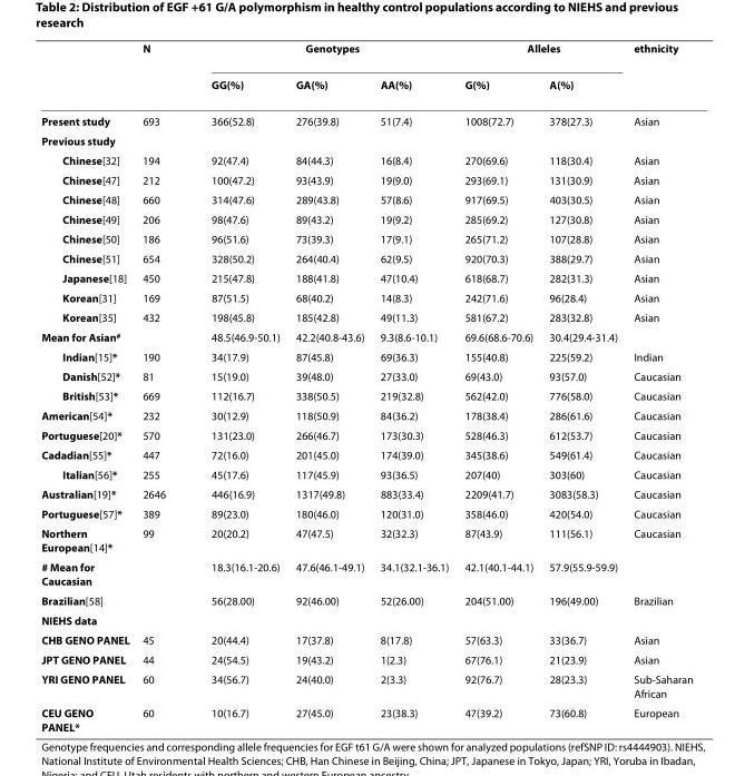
<table><thead><tr><td rowspan="2"></td><td rowspan="2">N</td><td colspan="3">Genotypes</td><td colspan="2">Alleles</td><td rowspan="2">ethnicity</td></tr><tr><td>GG(%)</td><td>GA(%)</td><td>AA(%)</td><td>G(%)</td><td>A(%)</td></tr></thead><tbody><tr><td>Present study</td><td>693</td><td>366(52.8)</td><td>276(39.8)</td><td>51(7.4)</td><td>1008(72.7)</td><td>378(27.3)</td><td>Asian</td></tr><tr><td colspan="8">Previous study</td></tr><tr><td>Chinese[32]</td><td>194</td><td>92(47.4)</td><td>84(44.3)</td><td>16(8.4)</td><td>270(69.6)</td><td>118(30.4)</td><td>Asian</td></tr><tr><td>Chinese[47]</td><td>212</td><td>100(47.2)</td><td>93(43.9)</td><td>19(9.0)</td><td>293(69.1)</td><td>131(30.9)</td><td>Asian</td></tr><tr><td>Chinese[48]</td><td>660</td><td>314(47.6)</td><td>289(43.8)</td><td>57(8.6)</td><td>917(69.5)</td><td>403(30.5)</td><td>Asian</td></tr><tr><td>Chinese[49]</td><td>206</td><td>98(47.6)</td><td>89(43.2)</td><td>19(9.2)</td><td>285(69.2)</td><td>127(30.8)</td><td>Asian</td></tr><tr><td>Chinese[50]</td><td>186</td><td>96(51.6)</td><td>73(39.3)</td><td>17(9.1)</td><td>265(71.2)</td><td>107(28.8)</td><td>Asian</td></tr><tr><td>Chinese[51]</td><td>654</td><td>328(50.2)</td><td>264(40.4)</td><td>62(9.5)</td><td>920(70.3)</td><td>388(29.7)</td><td>Asian</td></tr><tr><td>Japanese[18]</td><td>450</td><td>215(47.8)</td><td>188(41.8)</td><td>47(10.4)</td><td>618(68.7)</td><td>282(31.3)</td><td>Asian</td></tr><tr><td>Korean[31]</td><td>169</td><td>87(51.5)</td><td>68(40.2)</td><td>14(8.3)</td><td>242(71.6)</td><td>96(28.4)</td><td>Asian</td></tr><tr><td>Korean[35]</td><td>432</td><td>198(45.8)</td><td>185(42.8)</td><td>49(11.3)</td><td>581(67.2)</td><td>283(32.8)</td><td>Asian</td></tr><tr><td>Mean for Asian<sup>#</sup></td><td></td><td>48.5(46.9-50.1)</td><td>42.2(40.8-43.6)</td><td>9.3(8.6-10.1)</td><td>69.6(68.6-70.6)</td><td>30.4(29.4-31.4)</td><td></td></tr><tr><td>Indian[15]*</td><td>190</td><td>34(17.9)</td><td>87(45.8)</td><td>69(36.3)</td><td>155(40.8)</td><td>225(59.2)</td><td>Indian</td></tr><tr><td>Danish[52]*</td><td>81</td><td>15(19.0)</td><td>39(48.0)</td><td>27(33.0)</td><td>69(43.0)</td><td>93(57.0)</td><td>Caucasian</td></tr><tr><td>British[53]*</td><td>669</td><td>112(16.7)</td><td>338(50.5)</td><td>219(32.8)</td><td>562(42.0)</td><td>776(58.0)</td><td>Caucasian</td></tr><tr><td>American[54]*</td><td>232</td><td>30(12.9)</td><td>118(50.9)</td><td>84(36.2)</td><td>178(38.4)</td><td>286(61.6)</td><td>Caucasian</td></tr><tr><td>Portuguese[20]*</td><td>570</td><td>131(23.0)</td><td>266(46.7)</td><td>173(30.3)</td><td>528(46.3)</td><td>612(53.7)</td><td>Caucasian</td></tr><tr><td>Cadadian[55]*</td><td>447</td><td>72(16.0)</td><td>201(45.0)</td><td>174(39.0)</td><td>345(38.6)</td><td>549(61.4)</td><td>Caucasian</td></tr><tr><td>Italian[56]*</td><td>255</td><td>45(17.6)</td><td>117(45.9)</td><td>93(36.5)</td><td>207(40)</td><td>303(60)</td><td>Caucasian</td></tr><tr><td>Australian[19]*</td><td>2646</td><td>446(16.9)</td><td>1317(49.8)</td><td>883(33.4)</td><td>2209(41.7)</td><td>3083(58.3)</td><td>Caucasian</td></tr><tr><td>Portuguese[57]*</td><td>389</td><td>89(23.0)</td><td>180(46.0)</td><td>120(31.0)</td><td>358(46.0)</td><td>420(54.0)</td><td>Caucasian</td></tr><tr><td>Northern European[14]*</td><td>99</td><td>20(20.2)</td><td>47(47.5)</td><td>32(32.3)</td><td>87(43.9)</td><td>111(56.1)</td><td>Caucasian</td></tr><tr><td># Mean for Caucasian</td><td></td><td>18.3(16.1-20.6)</td><td>47.6(46.1-49.1)</td><td>34.1(32.1-36.1)</td><td>42.1(40.1-44.1)</td><td>57.9(55.9-59.9)</td><td></td></tr><tr><td>Brazilian[58]</td><td></td><td>56(28.00)</td><td>92(46.00)</td><td>52(26.00)</td><td>204(51.00)</td><td>196(49.00)</td><td>Brazilian</td></tr><tr><td colspan="8">NIEHS data</td></tr><tr><td>CHB GENO PANEL</td><td>45</td><td>20(44.4)</td><td>17(37.8)</td><td>8(17.8)</td><td>57(63.3)</td><td>33(36.7)</td><td>Asian</td></tr><tr><td>JPT GENO PANEL</td><td>44</td><td>24(54.5)</td><td>19(43.2)</td><td>1(2.3)</td><td>67(76.1)</td><td>21(23.9)</td><td>Asian</td></tr><tr><td>YRI GENO PANEL</td><td>60</td><td>34(56.7)</td><td>24(40.0)</td><td>2(3.3)</td><td>92(76.7)</td><td>28(23.3)</td><td>Sub-Saharan African</td></tr><tr><td>CEU GENO PANEL*</td><td>60</td><td>10(16.7)</td><td>27(45.0)</td><td>23(38.3)</td><td>47(39.2)</td><td>73(60.8)</td><td>European</td></tr></tbody></table>